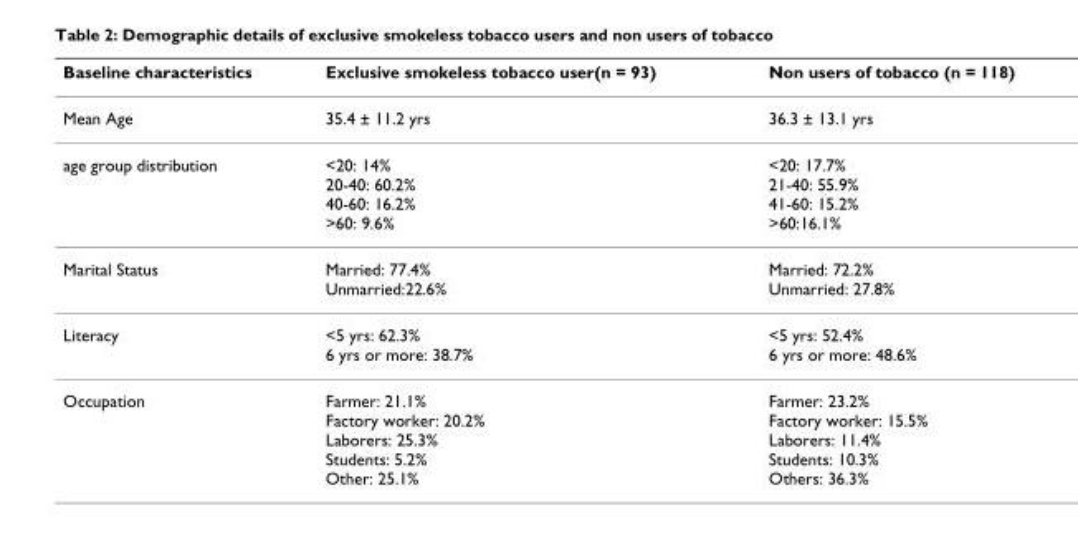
<table><thead><tr><td>Baseline characteristics</td><td>Exclusive smokeless tobacco user(n = 93)</td><td>Non users of tobacco (n = 118)</td></tr></thead><tbody><tr><td>Mean Age</td><td>35.4 ± 11.2 yrs</td><td>36.3 ± 13.1 yrs</td></tr><tr><td>age group distribution</td><td>&lt;20: 14% 20-40: 60.2% 40-60: 16.2% &gt;60: 9.6%</td><td>&lt;20: 17.7% 21-40: 55.9% 41-60: 15.2% &gt;60:16.1%</td></tr><tr><td>Marital Status</td><td>Married: 77.4% Unmarried:22.6%</td><td>Married: 72.2% Unmarried: 27.8%</td></tr><tr><td>Literacy</td><td>&lt;5 yrs: 62.3% 6 yrs or more: 38.7%</td><td>&lt;5 yrs: 52.4% 6 yrs or more: 48.6%</td></tr><tr><td>Occupation</td><td>Farmer: 21.1% Factory worker: 20.2% Laborers: 25.3% Students: 5.2% Other: 25.1%</td><td>Farmer: 23.2% Factory worker: 15.5% Laborers: 11.4% Students: 10.3% Others: 36.3%</td></tr></tbody></table>